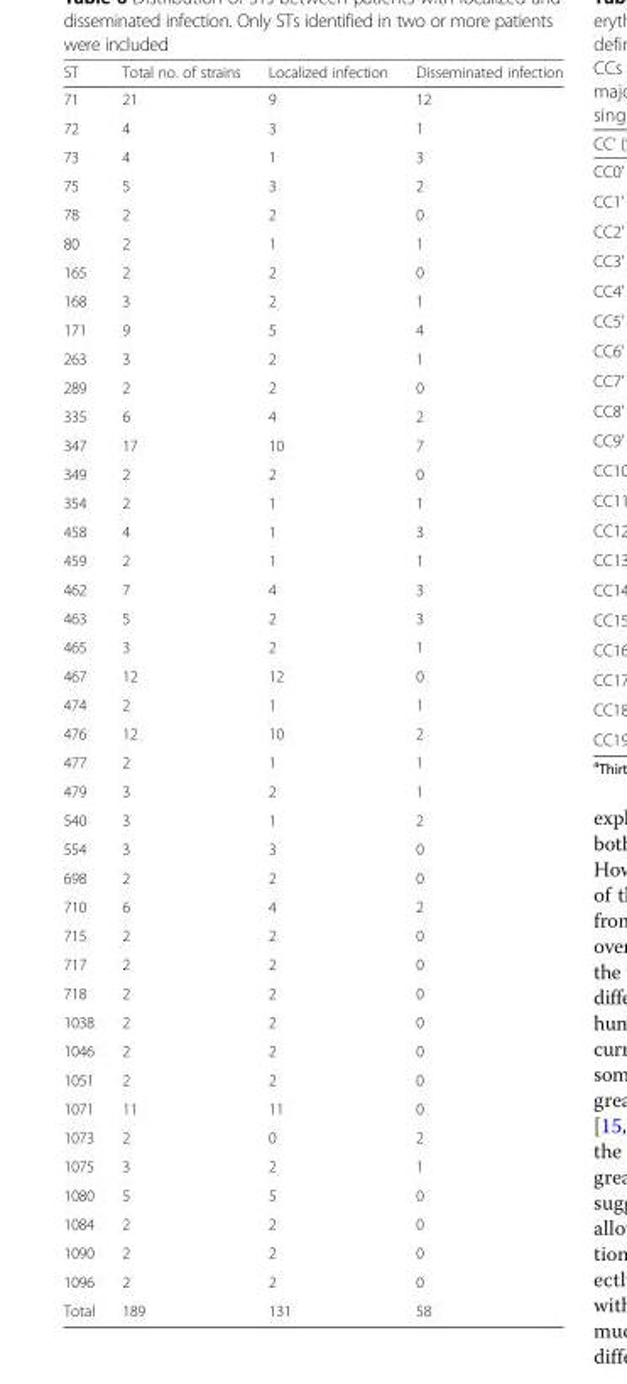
<table><thead><tr><td>ST</td><td>Total no. of strains</td><td>Localized infection</td><td>Disseminated infection</td></tr></thead><tbody><tr><td>71</td><td>21</td><td>9</td><td>12</td></tr><tr><td>72</td><td>4</td><td>3</td><td>1</td></tr><tr><td>73</td><td>4</td><td>1</td><td>3</td></tr><tr><td>75</td><td>5</td><td>3</td><td>2</td></tr><tr><td>78</td><td>2</td><td>2</td><td>0</td></tr><tr><td>80</td><td>2</td><td>1</td><td>1</td></tr><tr><td>165</td><td>2</td><td>2</td><td>0</td></tr><tr><td>168</td><td>3</td><td>2</td><td>1</td></tr><tr><td>171</td><td>9</td><td>5</td><td>4</td></tr><tr><td>263</td><td>3</td><td>2</td><td>1</td></tr><tr><td>289</td><td>2</td><td>2</td><td>0</td></tr><tr><td>335</td><td>6</td><td>4</td><td>2</td></tr><tr><td>347</td><td>17</td><td>10</td><td>7</td></tr><tr><td>349</td><td>2</td><td>2</td><td>0</td></tr><tr><td>354</td><td>2</td><td>1</td><td>1</td></tr><tr><td>458</td><td>4</td><td>1</td><td>3</td></tr><tr><td>459</td><td>2</td><td>1</td><td>1</td></tr><tr><td>462</td><td>7</td><td>4</td><td>3</td></tr><tr><td>463</td><td>5</td><td>2</td><td>3</td></tr><tr><td>465</td><td>3</td><td>2</td><td>1</td></tr><tr><td>467</td><td>12</td><td>12</td><td>0</td></tr><tr><td>474</td><td>2</td><td>1</td><td>1</td></tr><tr><td>476</td><td>12</td><td>10</td><td>2</td></tr><tr><td>477</td><td>2</td><td>1</td><td>1</td></tr><tr><td>479</td><td>3</td><td>2</td><td>1</td></tr><tr><td>540</td><td>3</td><td>1</td><td>2</td></tr><tr><td>554</td><td>3</td><td>3</td><td>0</td></tr><tr><td>698</td><td>2</td><td>2</td><td>0</td></tr><tr><td>710</td><td>6</td><td>4</td><td>2</td></tr><tr><td>715</td><td>2</td><td>2</td><td>0</td></tr><tr><td>717</td><td>2</td><td>2</td><td>0</td></tr><tr><td>718</td><td>2</td><td>2</td><td>0</td></tr><tr><td>1038</td><td>2</td><td>2</td><td>0</td></tr><tr><td>1046</td><td>2</td><td>2</td><td>0</td></tr><tr><td>1051</td><td>2</td><td>2</td><td>0</td></tr><tr><td>1071</td><td>11</td><td>11</td><td>0</td></tr><tr><td>1073</td><td>2</td><td>0</td><td>2</td></tr><tr><td>1075</td><td>3</td><td>2</td><td>1</td></tr><tr><td>1080</td><td>5</td><td>5</td><td>0</td></tr><tr><td>1084</td><td>2</td><td>2</td><td>0</td></tr><tr><td>1090</td><td>2</td><td>2</td><td>0</td></tr><tr><td>1096</td><td>2</td><td>2</td><td>0</td></tr><tr><td>Total</td><td>189</td><td>131</td><td>58</td></tr></tbody></table>